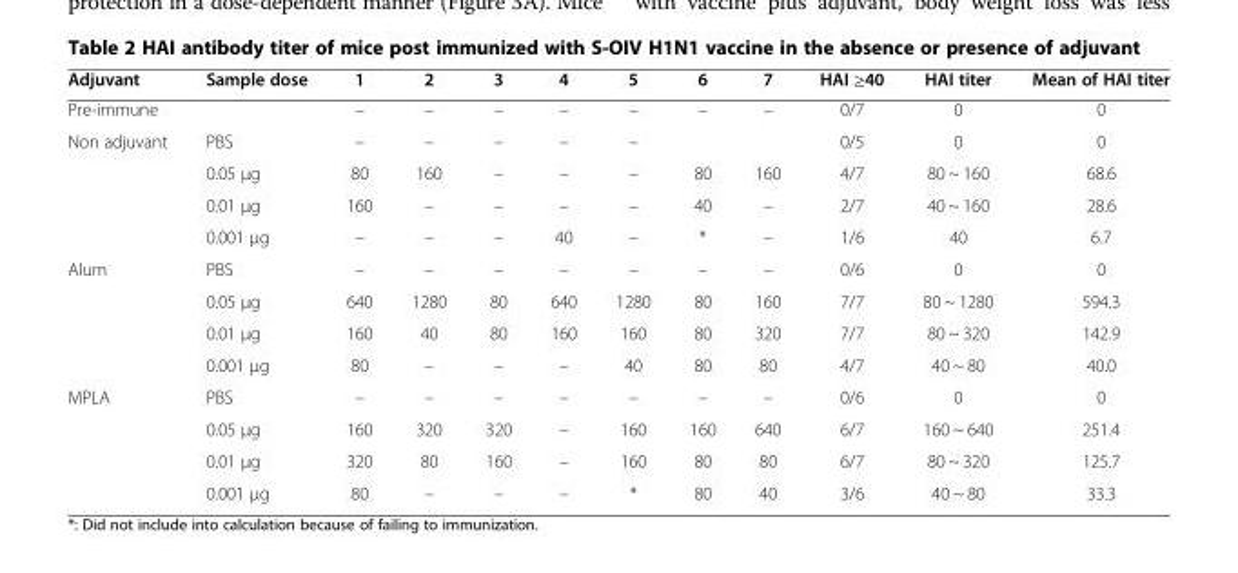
<table><thead><tr><td>Adjuvant</td><td>Sample dose</td><td>1</td><td>2</td><td>3</td><td>4</td><td>5</td><td>6</td><td>7</td><td>HAI ≥40</td><td>HAI titer</td><td>Mean of HAI titer</td></tr></thead><tbody><tr><td>Pre-immune</td><td></td><td>–</td><td>–</td><td>–</td><td>–</td><td>–</td><td>–</td><td>–</td><td>0/7</td><td>0</td><td>0</td></tr><tr><td rowspan="4">Non adjuvant</td><td>PBS</td><td>–</td><td>–</td><td>–</td><td>–</td><td>–</td><td></td><td></td><td>0/5</td><td>0</td><td>0</td></tr><tr><td>0.05 μg</td><td>80</td><td>160</td><td>–</td><td>–</td><td>–</td><td>80</td><td>160</td><td>4/7</td><td>80 ~ 160</td><td>68.6</td></tr><tr><td>0.01 μg</td><td>160</td><td>–</td><td>–</td><td>–</td><td>–</td><td>40</td><td>–</td><td>2/7</td><td>40 ~ 160</td><td>28.6</td></tr><tr><td>0.001 μg</td><td>–</td><td>–</td><td>–</td><td>40</td><td>–</td><td>*</td><td>–</td><td>1/6</td><td>40</td><td>6.7</td></tr><tr><td rowspan="4">Alum</td><td>PBS</td><td>–</td><td>–</td><td>–</td><td>–</td><td>–</td><td>–</td><td>–</td><td>0/6</td><td>0</td><td>0</td></tr><tr><td>0.05 μg</td><td>640</td><td>1280</td><td>80</td><td>640</td><td>1280</td><td>80</td><td>160</td><td>7/7</td><td>80 ~ 1280</td><td>594.3</td></tr><tr><td>0.01 μg</td><td>160</td><td>40</td><td>80</td><td>160</td><td>160</td><td>80</td><td>320</td><td>7/7</td><td>80 ~ 320</td><td>142.9</td></tr><tr><td>0.001 μg</td><td>80</td><td>–</td><td>–</td><td>–</td><td>40</td><td>80</td><td>80</td><td>4/7</td><td>40 ~ 80</td><td>40.0</td></tr><tr><td rowspan="4">MPLA</td><td>PBS</td><td>–</td><td>–</td><td>–</td><td>–</td><td>–</td><td>–</td><td>–</td><td>0/6</td><td>0</td><td>0</td></tr><tr><td>0.05 μg</td><td>160</td><td>320</td><td>320</td><td>–</td><td>160</td><td>160</td><td>640</td><td>6/7</td><td>160 ~ 640</td><td>251.4</td></tr><tr><td>0.01 μg</td><td>320</td><td>80</td><td>160</td><td>–</td><td>160</td><td>80</td><td>80</td><td>6/7</td><td>80 ~ 320</td><td>125.7</td></tr><tr><td>0.001 μg</td><td>80</td><td>–</td><td>–</td><td>–</td><td>*</td><td>80</td><td>40</td><td>3/6</td><td>40 ~ 80</td><td>33.3</td></tr></tbody></table>